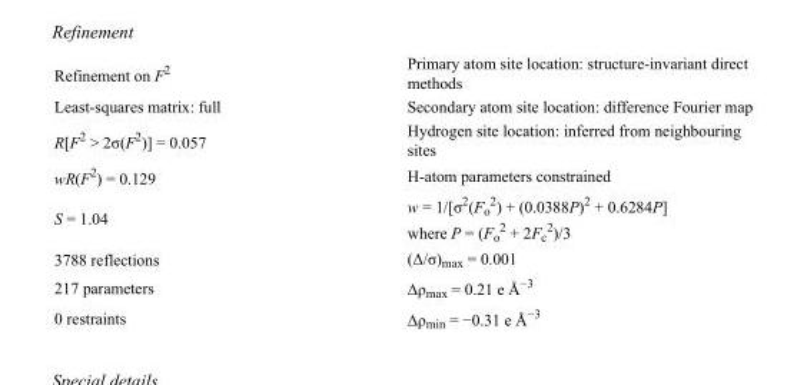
<table><tbody><tr><td>Refinement on F<sup>2</sup></td><td>Primary atom site location: structure-invariant direct methods</td></tr><tr><td>Least-squares matrix: full</td><td>Secondary atom site location: difference Fourier map</td></tr><tr><td>R[F<sup>2</sup> &gt; 2σ(F<sup>2</sup>)] = 0.057</td><td>Hydrogen site location: inferred from neighbouring sites</td></tr><tr><td>wR(F<sup>2</sup>) = 0.129</td><td>H-atom parameters constrained</td></tr><tr><td>S = 1.04</td><td>w = 1/[σ<sup>2</sup>(F<sub>o</sub> <sup>2</sup>) + (0.0388P)<sup>2</sup> + 0.6284P] where P = (F<sub>o</sub> <sup>2</sup> + 2F<sub>c</sub> <sup>2</sup>)/3</td></tr><tr><td>3788 reflections</td><td>(Δ/σ)<sub>max</sub> = 0.001</td></tr><tr><td>217 parameters</td><td>Δρ<sub>max</sub> = 0.21 e Å<sup>−3</sup></td></tr><tr><td>0 restraints</td><td>Δρ<sub>min</sub> = −0.31 e Å<sup>−3</sup></td></tr></tbody></table>